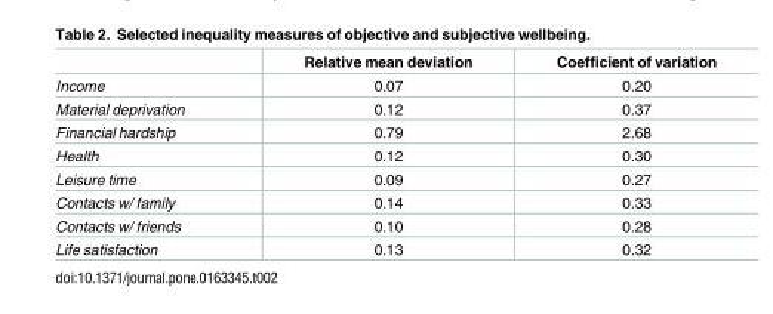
<table><thead><tr><td></td><td>Relative mean deviation</td><td>Coefficient of variation</td></tr></thead><tbody><tr><td>Income</td><td>0.07</td><td>0.20</td></tr><tr><td>Material deprivation</td><td>0.12</td><td>0.37</td></tr><tr><td>Financial hardship</td><td>0.79</td><td>2.68</td></tr><tr><td>Health</td><td>0.12</td><td>0.30</td></tr><tr><td>Leisure time</td><td>0.09</td><td>0.27</td></tr><tr><td>Contacts w/ family</td><td>0.14</td><td>0.33</td></tr><tr><td>Contacts w/ friends</td><td>0.10</td><td>0.28</td></tr><tr><td>Life satisfaction</td><td>0.13</td><td>0.32</td></tr></tbody></table>